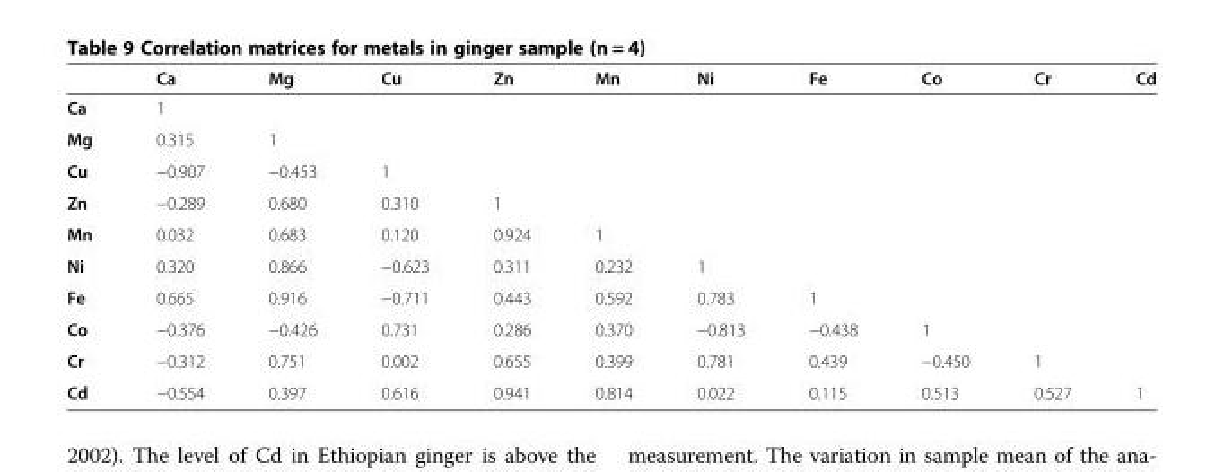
<table><thead><tr><td></td><td>Ca</td><td>Mg</td><td>Cu</td><td>Zn</td><td>Mn</td><td>Ni</td><td>Fe</td><td>Co</td><td>Cr</td><td>Cd</td></tr></thead><tbody><tr><td>Ca</td><td>1</td><td></td><td></td><td></td><td></td><td></td><td></td><td></td><td></td><td></td></tr><tr><td>Mg</td><td>0.315</td><td>1</td><td></td><td></td><td></td><td></td><td></td><td></td><td></td><td></td></tr><tr><td>Cu</td><td>−0.907</td><td>−0.453</td><td>1</td><td></td><td></td><td></td><td></td><td></td><td></td><td></td></tr><tr><td>Zn</td><td>−0.289</td><td>0.680</td><td>0.310</td><td>1</td><td></td><td></td><td></td><td></td><td></td><td></td></tr><tr><td>Mn</td><td>0.032</td><td>0.683</td><td>0.120</td><td>0.924</td><td>1</td><td></td><td></td><td></td><td></td><td></td></tr><tr><td>Ni</td><td>0.320</td><td>0.866</td><td>−0.623</td><td>0.311</td><td>0.232</td><td>1</td><td></td><td></td><td></td><td></td></tr><tr><td>Fe</td><td>0.665</td><td>0.916</td><td>−0.711</td><td>0.443</td><td>0.592</td><td>0.783</td><td>1</td><td></td><td></td><td></td></tr><tr><td>Co</td><td>−0.376</td><td>−0.426</td><td>0.731</td><td>0.286</td><td>0.370</td><td>−0.813</td><td>−0.438</td><td>1</td><td></td><td></td></tr><tr><td>Cr</td><td>−0.312</td><td>0.751</td><td>0.002</td><td>0.655</td><td>0.399</td><td>0.781</td><td>0.439</td><td>−0.450</td><td>1</td><td></td></tr><tr><td>Cd</td><td>−0.554</td><td>0.397</td><td>0.616</td><td>0.941</td><td>0.814</td><td>0.022</td><td>0.115</td><td>0.513</td><td>0.527</td><td>1</td></tr></tbody></table>